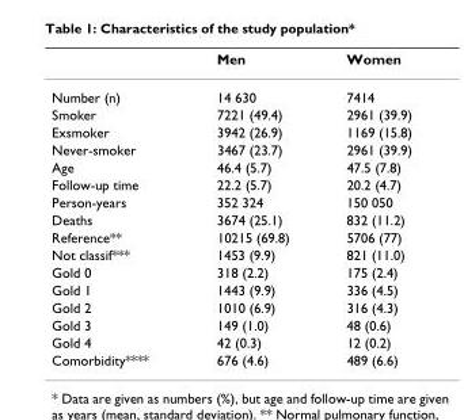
<table><thead><tr><td></td><td>Men</td><td>Women</td></tr></thead><tbody><tr><td>Number (n)</td><td>14 630</td><td>7414</td></tr><tr><td>Smoker</td><td>7221 (49.4)</td><td>2961 (39.9)</td></tr><tr><td>Exsmoker</td><td>3942 (26.9)</td><td>1169 (15.8)</td></tr><tr><td>Never-smoker</td><td>3467 (23.7)</td><td>2961 (39.9)</td></tr><tr><td>Age</td><td>46.4 (5.7)</td><td>47.5 (7.8)</td></tr><tr><td>Follow-up time</td><td>22.2 (5.7)</td><td>20.2 (4.7)</td></tr><tr><td>Person-years</td><td>352 324</td><td>150 050</td></tr><tr><td>Deaths</td><td>3674 (25.1)</td><td>832 (11.2)</td></tr><tr><td>Reference**</td><td>10215 (69.8)</td><td>5706 (77)</td></tr><tr><td>Not classif***</td><td>1453 (9.9)</td><td>821 (11.0)</td></tr><tr><td>Gold 0</td><td>318 (2.2)</td><td>175 (2.4)</td></tr><tr><td>Gold 1</td><td>1443 (9.9)</td><td>336 (4.5)</td></tr><tr><td>Gold 2</td><td>1010 (6.9)</td><td>316 (4.3)</td></tr><tr><td>Gold 3</td><td>149 (1.0)</td><td>48 (0.6)</td></tr><tr><td>Gold 4</td><td>42 (0.3)</td><td>12 (0.2)</td></tr><tr><td>Comorbidity****</td><td>676 (4.6)</td><td>489 (6.6)</td></tr></tbody></table>